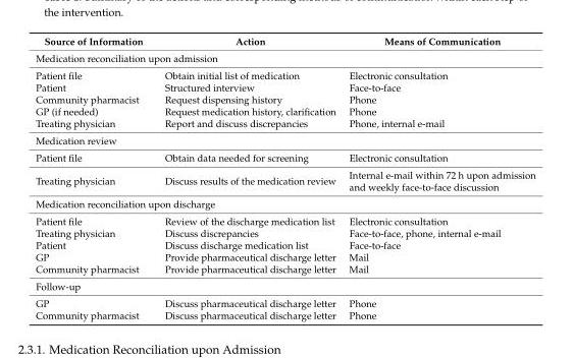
<table><thead><tr><td>Source of Information</td><td>Action</td><td>Means of Communication</td></tr></thead><tbody><tr><td colspan="3">Medication reconciliation upon admission</td></tr><tr><td>Patient file</td><td>Obtain initial list of medication</td><td>Electronic consultation</td></tr><tr><td>Patient</td><td>Structured interview</td><td>Face-to-face</td></tr><tr><td>Community pharmacist</td><td>Request dispensing history</td><td>Phone</td></tr><tr><td>GP (if needed)</td><td>Request medication history, clarification</td><td>Phone</td></tr><tr><td>Treating physician</td><td>Report and discuss discrepancies</td><td>Phone, internal e-mail</td></tr><tr><td colspan="3">Medication review</td></tr><tr><td>Patient file</td><td>Obtain data needed for screening</td><td>Electronic consultation</td></tr><tr><td>Treating physician</td><td>Discuss results of the medication review</td><td>Internal e-mail within 72 h upon admission and weekly face-to-face discussion</td></tr><tr><td colspan="3">Medication reconciliation upon discharge</td></tr><tr><td>Patient file</td><td>Review of the discharge medication list</td><td>Electronic consultation</td></tr><tr><td>Treating physician</td><td>Discuss discrepancies</td><td>Face-to-face, phone, internal e-mail</td></tr><tr><td>Patient</td><td>Discuss discharge medication list</td><td>Face-to-face</td></tr><tr><td>GP</td><td>Provide pharmaceutical discharge letter</td><td>Mail</td></tr><tr><td>Community pharmacist</td><td>Provide pharmaceutical discharge letter</td><td>Mail</td></tr><tr><td colspan="3">Follow-up</td></tr><tr><td>GP</td><td>Discuss pharmaceutical discharge letter</td><td>Phone</td></tr><tr><td>Community pharmacist</td><td>Discuss pharmaceutical discharge letter</td><td>Phone</td></tr></tbody></table>